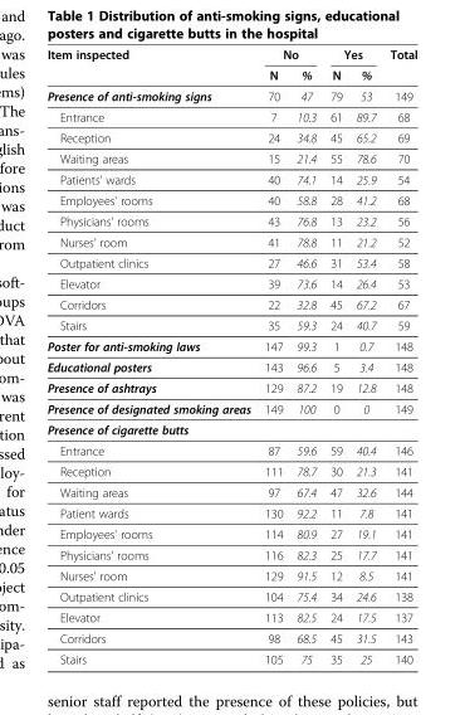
<table><thead><tr><td rowspan="2">Item inspected</td><td colspan="2">No</td><td colspan="2">Yes</td><td rowspan="2">Total</td></tr><tr><td>N</td><td>%</td><td>N</td><td>%</td></tr></thead><tbody><tr><td>Presence of anti-smoking signs</td><td>70</td><td>47</td><td>79</td><td>53</td><td>149</td></tr><tr><td>Entrance</td><td>7</td><td>10.3</td><td>61</td><td>89.7</td><td>68</td></tr><tr><td>Reception</td><td>24</td><td>34.8</td><td>45</td><td>65.2</td><td>69</td></tr><tr><td>Waiting areas</td><td>15</td><td>21.4</td><td>55</td><td>78.6</td><td>70</td></tr><tr><td>Patients’ wards</td><td>40</td><td>74.1</td><td>14</td><td>25.9</td><td>54</td></tr><tr><td>Employees&#x27; rooms</td><td>40</td><td>58.8</td><td>28</td><td>41.2</td><td>68</td></tr><tr><td>Physicians&#x27; rooms</td><td>43</td><td>76.8</td><td>13</td><td>23.2</td><td>56</td></tr><tr><td>Nurses&#x27; room</td><td>41</td><td>78.8</td><td>11</td><td>21.2</td><td>52</td></tr><tr><td>Outpatient clinics</td><td>27</td><td>46.6</td><td>31</td><td>53.4</td><td>58</td></tr><tr><td>Elevator</td><td>39</td><td>73.6</td><td>14</td><td>26.4</td><td>53</td></tr><tr><td>Corridors</td><td>22</td><td>32.8</td><td>45</td><td>67.2</td><td>67</td></tr><tr><td>Stairs</td><td>35</td><td>59.3</td><td>24</td><td>40.7</td><td>59</td></tr><tr><td>Poster for anti-smoking laws</td><td>147</td><td>99.3</td><td>1</td><td>0.7</td><td>148</td></tr><tr><td>Educational posters</td><td>143</td><td>96.6</td><td>5</td><td>3.4</td><td>148</td></tr><tr><td>Presence of ashtrays</td><td>129</td><td>87.2</td><td>19</td><td>12.8</td><td>148</td></tr><tr><td>Presence of designated smoking areas</td><td>149</td><td>100</td><td>0</td><td>0</td><td>149</td></tr><tr><td colspan="6">Presence of cigarette butts</td></tr><tr><td>Entrance</td><td>87</td><td>59.6</td><td>59</td><td>40.4</td><td>146</td></tr><tr><td>Reception</td><td>111</td><td>78.7</td><td>30</td><td>21.3</td><td>141</td></tr><tr><td>Waiting areas</td><td>97</td><td>67.4</td><td>47</td><td>32.6</td><td>144</td></tr><tr><td>Patient wards</td><td>130</td><td>92.2</td><td>11</td><td>7.8</td><td>141</td></tr><tr><td>Employees&#x27; rooms</td><td>114</td><td>80.9</td><td>27</td><td>19.1</td><td>141</td></tr><tr><td>Physicians&#x27; rooms</td><td>116</td><td>82.3</td><td>25</td><td>17.7</td><td>141</td></tr><tr><td>Nurses&#x27; room</td><td>129</td><td>91.5</td><td>12</td><td>8.5</td><td>141</td></tr><tr><td>Outpatient clinics</td><td>104</td><td>75.4</td><td>34</td><td>24.6</td><td>138</td></tr><tr><td>Elevator</td><td>113</td><td>82.5</td><td>24</td><td>17.5</td><td>137</td></tr><tr><td>Corridors</td><td>98</td><td>68.5</td><td>45</td><td>31.5</td><td>143</td></tr><tr><td>Stairs</td><td>105</td><td>75</td><td>35</td><td>25</td><td>140</td></tr></tbody></table>